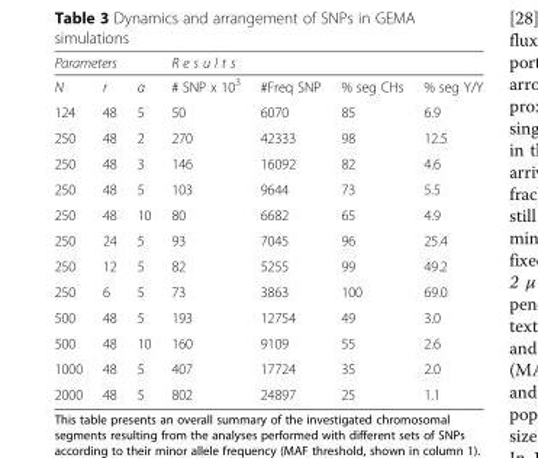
<table><thead><tr><td colspan="3">Parameters</td><td colspan="4">R e s u l t s</td></tr><tr><td>N</td><td>r</td><td>α</td><td># SNP x 10<sup>3</sup></td><td>#Freq SNP</td><td>% seg CHs</td><td>% seg Y/Y</td></tr></thead><tbody><tr><td>124</td><td>48</td><td>5</td><td>50</td><td>6070</td><td>85</td><td>6.9</td></tr><tr><td>250</td><td>48</td><td>2</td><td>270</td><td>42333</td><td>98</td><td>12.5</td></tr><tr><td>250</td><td>48</td><td>3</td><td>146</td><td>16092</td><td>82</td><td>4.6</td></tr><tr><td>250</td><td>48</td><td>5</td><td>103</td><td>9644</td><td>73</td><td>5.5</td></tr><tr><td>250</td><td>48</td><td>10</td><td>80</td><td>6682</td><td>65</td><td>4.9</td></tr><tr><td>250</td><td>24</td><td>5</td><td>93</td><td>7045</td><td>96</td><td>25.4</td></tr><tr><td>250</td><td>12</td><td>5</td><td>82</td><td>5255</td><td>99</td><td>49.2</td></tr><tr><td>250</td><td>6</td><td>5</td><td>73</td><td>3863</td><td>100</td><td>69.0</td></tr><tr><td>500</td><td>48</td><td>5</td><td>193</td><td>12754</td><td>49</td><td>3.0</td></tr><tr><td>500</td><td>48</td><td>10</td><td>160</td><td>9109</td><td>55</td><td>2.6</td></tr><tr><td>1000</td><td>48</td><td>5</td><td>407</td><td>17724</td><td>35</td><td>2.0</td></tr><tr><td>2000</td><td>48</td><td>5</td><td>802</td><td>24897</td><td>25</td><td>1.1</td></tr></tbody></table>